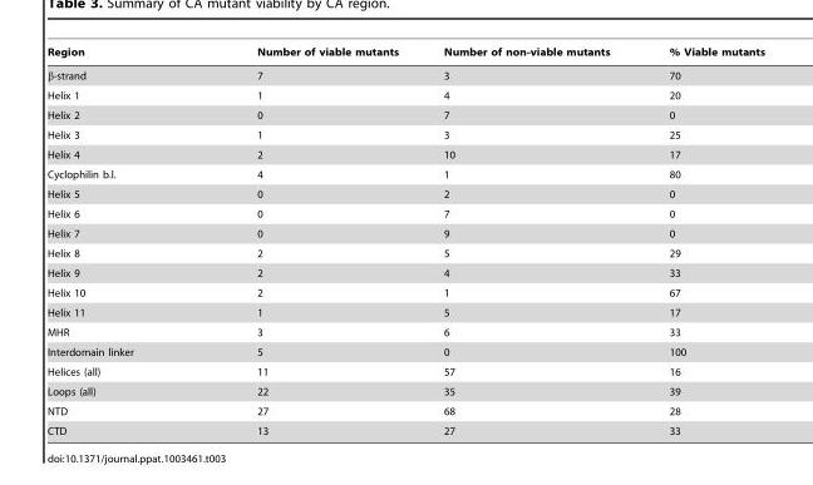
<table><thead><tr><td>Region</td><td>Number of viable mutants</td><td>Number of non-viable mutants</td><td>% Viable mutants</td></tr></thead><tbody><tr><td>β-strand</td><td>7</td><td>3</td><td>70</td></tr><tr><td>Helix 1</td><td>1</td><td>4</td><td>20</td></tr><tr><td>Helix 2</td><td>0</td><td>7</td><td>0</td></tr><tr><td>Helix 3</td><td>1</td><td>3</td><td>25</td></tr><tr><td>Helix 4</td><td>2</td><td>10</td><td>17</td></tr><tr><td>Cyclophilin b.l.</td><td>4</td><td>1</td><td>80</td></tr><tr><td>Helix 5</td><td>0</td><td>2</td><td>0</td></tr><tr><td>Helix 6</td><td>0</td><td>7</td><td>0</td></tr><tr><td>Helix 7</td><td>0</td><td>9</td><td>0</td></tr><tr><td>Helix 8</td><td>2</td><td>5</td><td>29</td></tr><tr><td>Helix 9</td><td>2</td><td>4</td><td>33</td></tr><tr><td>Helix 10</td><td>2</td><td>1</td><td>67</td></tr><tr><td>Helix 11</td><td>1</td><td>5</td><td>17</td></tr><tr><td>MHR</td><td>3</td><td>6</td><td>33</td></tr><tr><td>Interdomain linker</td><td>5</td><td>0</td><td>100</td></tr><tr><td>Helices (all)</td><td>11</td><td>57</td><td>16</td></tr><tr><td>Loops (all)</td><td>22</td><td>35</td><td>39</td></tr><tr><td>NTD</td><td>27</td><td>68</td><td>28</td></tr><tr><td>CTD</td><td>13</td><td>27</td><td>33</td></tr></tbody></table>